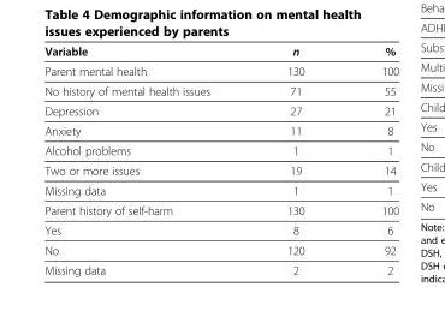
<table><thead><tr><td>Variable</td><td>n</td><td>%</td></tr></thead><tbody><tr><td>Parent mental health</td><td>130</td><td>100</td></tr><tr><td>No history of mental health issues</td><td>71</td><td>55</td></tr><tr><td>Depression</td><td>27</td><td>21</td></tr><tr><td>Anxiety</td><td>11</td><td>8</td></tr><tr><td>Alcohol problems</td><td>1</td><td>1</td></tr><tr><td>Two or more issues</td><td>19</td><td>14</td></tr><tr><td>Missing data</td><td>1</td><td>1</td></tr><tr><td>Parent history of self-harm</td><td>130</td><td>100</td></tr><tr><td>Yes</td><td>8</td><td>6</td></tr><tr><td>No</td><td>120</td><td>92</td></tr><tr><td>Missing data</td><td>2</td><td>2</td></tr></tbody></table>